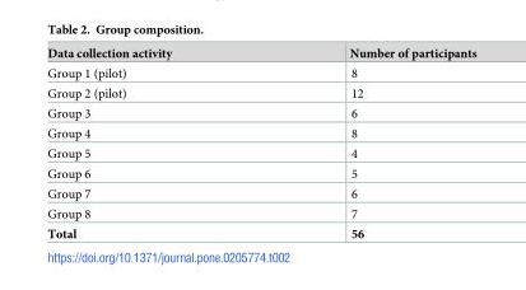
<table><thead><tr><td>Data collection activity</td><td>Number of participants</td></tr></thead><tbody><tr><td>Group 1 (pilot)</td><td>8</td></tr><tr><td>Group 2 (pilot)</td><td>12</td></tr><tr><td>Group 3</td><td>6</td></tr><tr><td>Group 4</td><td>8</td></tr><tr><td>Group 5</td><td>4</td></tr><tr><td>Group 6</td><td>5</td></tr><tr><td>Group 7</td><td>6</td></tr><tr><td>Group 8</td><td>7</td></tr><tr><td>Total</td><td>56</td></tr></tbody></table>